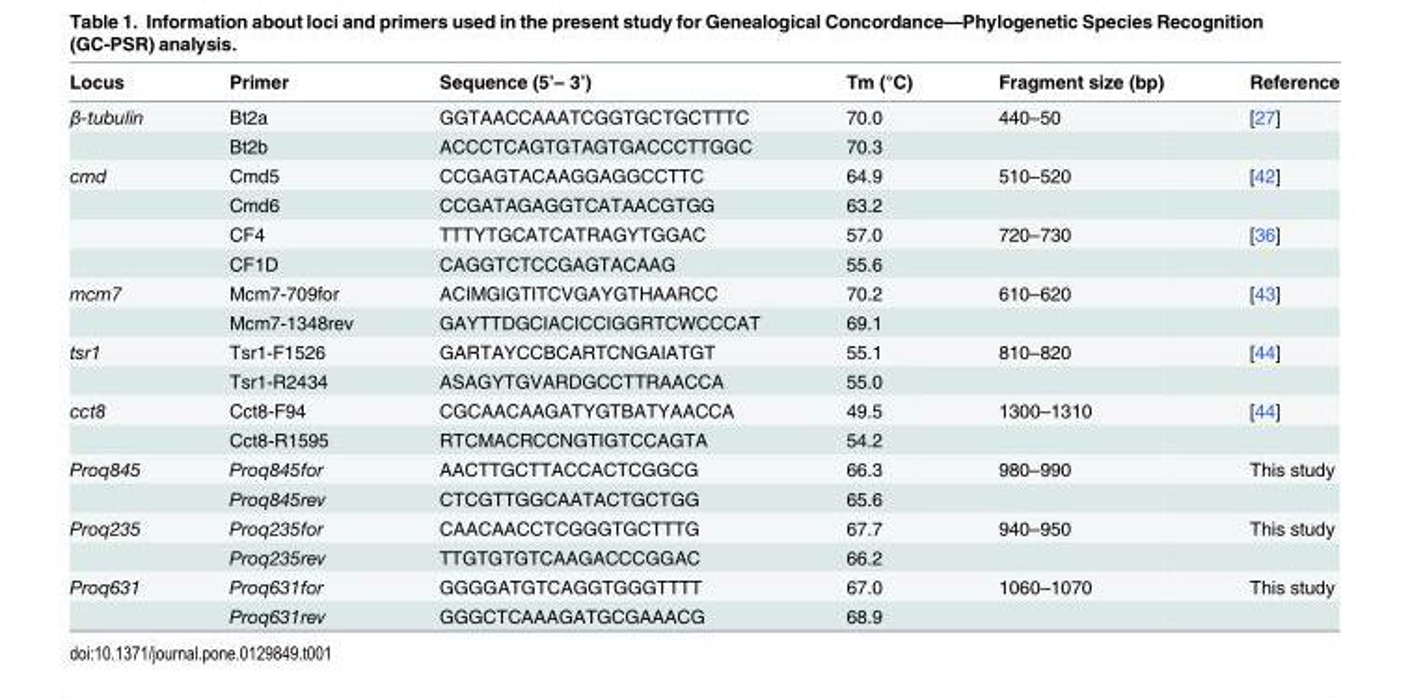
<table><thead><tr><td>Locus</td><td>Primer</td><td>Sequence (5’– 3’)</td><td>Tm (°C)</td><td>Fragment size (bp)</td><td>Reference</td></tr></thead><tbody><tr><td rowspan="2">β-tubulin</td><td>Bt2a</td><td>GGTAACCAAATCGGTGCTGCTTTC</td><td>70.0</td><td>440–50</td><td>[27]</td></tr><tr><td>Bt2b</td><td>ACCCTCAGTGTAGTGACCCTTGGC</td><td>70.3</td><td></td><td></td></tr><tr><td rowspan="4">cmd</td><td>Cmd5</td><td>CCGAGTACAAGGAGGCCTTC</td><td>64.9</td><td>510–520</td><td>[42]</td></tr><tr><td>Cmd6</td><td>CCGATAGAGGTCATAACGTGG</td><td>63.2</td><td></td><td></td></tr><tr><td>CF4</td><td>TTTYTGCATCATRAGYTGGAC</td><td>57.0</td><td>720–730</td><td>[36]</td></tr><tr><td>CF1D</td><td>CAGGTCTCCGAGTACAAG</td><td>55.6</td><td></td><td></td></tr><tr><td rowspan="2">mcm7</td><td>Mcm7-709for</td><td>ACIMGIGTITCVGAYGTHAARCC</td><td>70.2</td><td>610–620</td><td>[43]</td></tr><tr><td>Mcm7-1348rev</td><td>GAYTTDGCIACICCIGGRTCWCCCAT</td><td>69.1</td><td></td><td></td></tr><tr><td rowspan="2">tsr1</td><td>Tsr1-F1526</td><td>GARTAYCCBCARTCNGAIATGT</td><td>55.1</td><td>810–820</td><td>[44]</td></tr><tr><td>Tsr1-R2434</td><td>ASAGYTGVARDGCCTTRAACCA</td><td>55.0</td><td></td><td></td></tr><tr><td rowspan="2">cct8</td><td>Cct8-F94</td><td>CGCAACAAGATYGTBATYAACCA</td><td>49.5</td><td>1300–1310</td><td>[44]</td></tr><tr><td>Cct8-R1595</td><td>RTCMACRCCNGTIGTCCAGTA</td><td>54.2</td><td></td><td></td></tr><tr><td rowspan="2">Proq845</td><td>Proq845for</td><td>AACTTGCTTACCACTCGGCG</td><td>66.3</td><td>980–990</td><td>This study</td></tr><tr><td>Proq845rev</td><td>CTCGTTGGCAATACTGCTGG</td><td>65.6</td><td></td><td></td></tr><tr><td rowspan="2">Proq235</td><td>Proq235for</td><td>CAACAACCTCGGGTGCTTTG</td><td>67.7</td><td>940–950</td><td>This study</td></tr><tr><td>Proq235rev</td><td>TTGTGTGTCAAGACCCGGAC</td><td>66.2</td><td></td><td></td></tr><tr><td rowspan="2">Proq631</td><td>Proq631for</td><td>GGGGATGTCAGGTGGGTTTT</td><td>67.0</td><td>1060–1070</td><td>This study</td></tr><tr><td>Proq631rev</td><td>GGGCTCAAAGATGCGAAACG</td><td>68.9</td><td></td><td></td></tr></tbody></table>